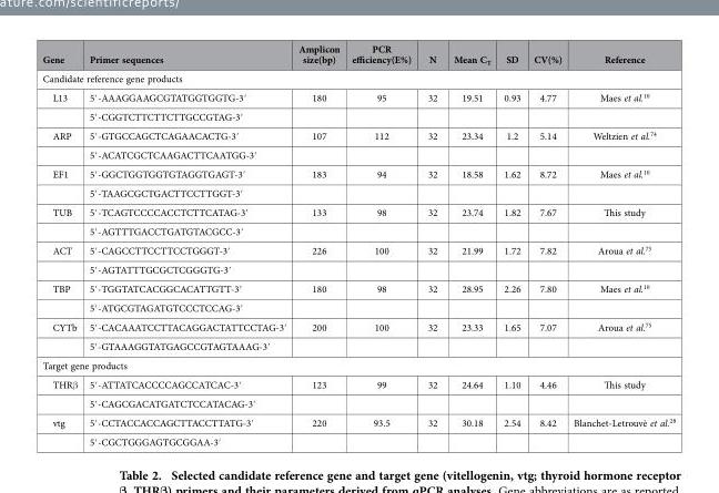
<table><thead><tr><td>Gene</td><td>Primer sequences</td><td>Amplicon size(bp)</td><td>PCR efficiency(E%)</td><td>N</td><td>Mean C<sub>T</sub></td><td>SD</td><td>CV(%)</td><td>Reference</td></tr></thead><tbody><tr><td colspan="9">Candidate reference gene products</td></tr><tr><td rowspan="2">L13</td><td>5′ -AAAGGAAGCGTATGGTGGTG-3′</td><td>180</td><td>95</td><td>32</td><td>19.51</td><td>0.93</td><td>4.77</td><td>Maes et al.<sup>10</sup></td></tr><tr><td>5′ -CGGTCTTCTTCTTGCCGTAG-3′</td><td></td><td></td><td></td><td></td><td></td><td></td><td></td></tr><tr><td rowspan="2">ARP</td><td>5′ -GTGCCAGCTCAGAACACTG-3′</td><td>107</td><td>112</td><td>32</td><td>23.34</td><td>1.2</td><td>5.14</td><td>Weltzien et al.<sup>74</sup></td></tr><tr><td>5′ -ACATCGCTCAAGACTTCAATGG-3′</td><td></td><td></td><td></td><td></td><td></td><td></td><td></td></tr><tr><td rowspan="2">EF1</td><td>5′ -GGCTGGTGGTGTAGGTGAGT-3′</td><td>183</td><td>94</td><td>32</td><td>18.58</td><td>1.62</td><td>8.72</td><td>Maes et al.<sup>10</sup></td></tr><tr><td>5′ -TAAGCGCTGACTTCCTTGGT-3′</td><td></td><td></td><td></td><td></td><td></td><td></td><td></td></tr><tr><td rowspan="2">TUB</td><td>5′ -TCAGTCCCCACCTCTTCATAG-3′</td><td>133</td><td>98</td><td>32</td><td>23.74</td><td>1.82</td><td>7.67</td><td>This study</td></tr><tr><td>5′ -AGTTTGACCTGATGTACGCC-3′</td><td></td><td></td><td></td><td></td><td></td><td></td><td></td></tr><tr><td rowspan="2">ACT</td><td>5′ -CAGCCTTCCTTCCTGGGT-3′</td><td>226</td><td>100</td><td>32</td><td>21.99</td><td>1.72</td><td>7.82</td><td>Aroua et al.<sup>75</sup></td></tr><tr><td>5′ -AGTATTTGCGCTCGGGTG-3′</td><td></td><td></td><td></td><td></td><td></td><td></td><td></td></tr><tr><td rowspan="2">TBP</td><td>5′ -TGGTATCACGGCACATTGTT-3′</td><td>180</td><td>98</td><td>32</td><td>28.95</td><td>2.26</td><td>7.80</td><td>Maes et al.<sup>10</sup></td></tr><tr><td>5′ -ATGCGTAGATGTCCCTCCAG-3′</td><td></td><td></td><td></td><td></td><td></td><td></td><td></td></tr><tr><td rowspan="2">CYTb</td><td>5′ -CACAAATCCTTACAGGACTATTCCTAG-3′</td><td>200</td><td>100</td><td>32</td><td>23.33</td><td>1.65</td><td>7.07</td><td>Aroua et al.<sup>75</sup></td></tr><tr><td>5′ -GTAAAGGTATGAGCCGTAGTAAAG-3′</td><td></td><td></td><td></td><td></td><td></td><td></td><td></td></tr><tr><td colspan="9">Target gene products</td></tr><tr><td rowspan="2">THRβ</td><td>5′ -ATTATCACCCCAGCCATCAC-3′</td><td>123</td><td>99</td><td>32</td><td>24.64</td><td>1.10</td><td>4.46</td><td>This study</td></tr><tr><td>5′ -CAGCGACATGATCTCCATACAG-3′</td><td></td><td></td><td></td><td></td><td></td><td></td><td></td></tr><tr><td rowspan="2">vtg</td><td>5′ -CCTACCACCAGCTTACCTTATG-3′</td><td>220</td><td>93.5</td><td>32</td><td>30.18</td><td>2.54</td><td>8.42</td><td>Blanchet-Letrouvè et al.<sup>28</sup></td></tr><tr><td>5′ -CGCTGGGAGTGCGGAA-3′</td><td></td><td></td><td></td><td></td><td></td><td></td><td></td></tr></tbody></table>